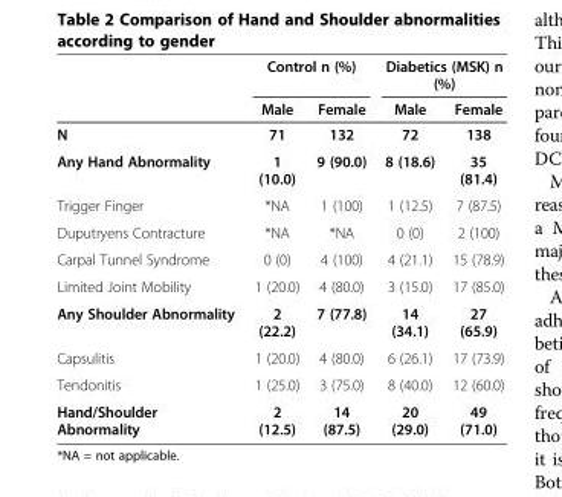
<table><thead><tr><td rowspan="2"></td><td colspan="2">Control n (%)</td><td colspan="2">Diabetics (MSK) n (%)</td></tr><tr><td>Male</td><td>Female</td><td>Male</td><td>Female</td></tr></thead><tbody><tr><td>N</td><td>71</td><td>132</td><td>72</td><td>138</td></tr><tr><td>Any Hand Abnormality</td><td>1 (10.0)</td><td>9 (90.0)</td><td>8 (18.6)</td><td>35 (81.4)</td></tr><tr><td>Trigger Finger</td><td>*NA</td><td>1 (100)</td><td>1 (12.5)</td><td>7 (87.5)</td></tr><tr><td>Duputryens Contracture</td><td>*NA</td><td>*NA</td><td>0 (0)</td><td>2 (100)</td></tr><tr><td>Carpal Tunnel Syndrome</td><td>0 (0)</td><td>4 (100)</td><td>4 (21.1)</td><td>15 (78.9)</td></tr><tr><td>Limited Joint Mobility</td><td>1 (20.0)</td><td>4 (80.0)</td><td>3 (15.0)</td><td>17 (85.0)</td></tr><tr><td>Any Shoulder Abnormality</td><td>2 (22.2)</td><td>7 (77.8)</td><td>14 (34.1)</td><td>27 (65.9)</td></tr><tr><td>Capsulitis</td><td>1 (20.0)</td><td>4 (80.0)</td><td>6 (26.1)</td><td>17 (73.9)</td></tr><tr><td>Tendonitis</td><td>1 (25.0)</td><td>3 (75.0)</td><td>8 (40.0)</td><td>12 (60.0)</td></tr><tr><td>Hand/Shoulder Abnormality</td><td>2 (12.5)</td><td>14 (87.5)</td><td>20 (29.0)</td><td>49 (71.0)</td></tr></tbody></table>